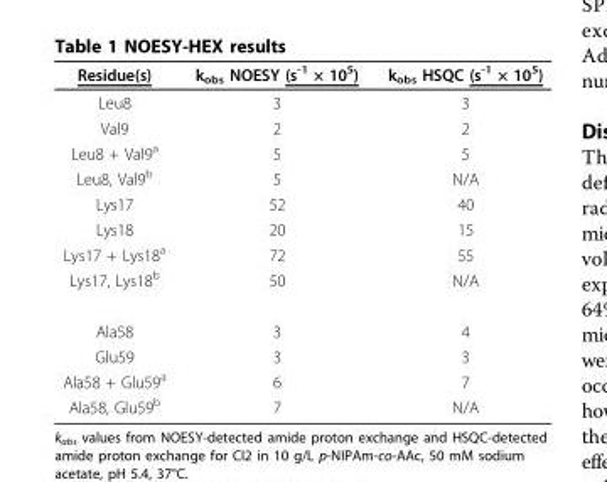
<table><thead><tr><td>Residue(s)</td><td>k<sub>obs</sub> NOESY (s<sup>-1</sup> × 10<sup>5</sup>)</td><td>k<sub>obs</sub> HSQC (s<sup>-1</sup> × 10<sup>5</sup>)</td></tr></thead><tbody><tr><td>Leu8</td><td>3</td><td>3</td></tr><tr><td>Val9</td><td>2</td><td>2</td></tr><tr><td>Leu8 + Val9<sup>a</sup></td><td>5</td><td>5</td></tr><tr><td>Leu8, Val9<sup>b</sup></td><td>5</td><td>N/A</td></tr><tr><td>Lys17</td><td>52</td><td>40</td></tr><tr><td>Lys18</td><td>20</td><td>15</td></tr><tr><td>Lys17 + Lys18<sup>a</sup></td><td>72</td><td>55</td></tr><tr><td>Lys17, Lys18<sup>b</sup></td><td>50</td><td>N/A</td></tr><tr><td>Ala58</td><td>3</td><td>4</td></tr><tr><td>Glu59</td><td>3</td><td>3</td></tr><tr><td>Ala58 + Glu59<sup>a</sup></td><td>6</td><td>7</td></tr><tr><td>Ala58, Glu59<sup>b</sup></td><td>7</td><td>N/A</td></tr></tbody></table>